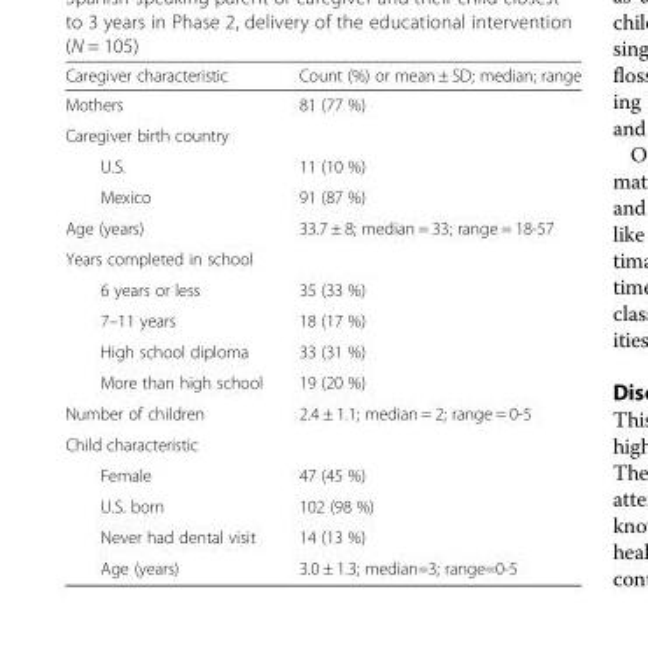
<table><thead><tr><td>Caregiver characteristic</td><td>Count (%) or mean ± SD; median; range</td></tr></thead><tbody><tr><td>Mothers</td><td>81 (77 %)</td></tr><tr><td colspan="2">Caregiver birth country</td></tr><tr><td>U.S.</td><td>11 (10 %)</td></tr><tr><td>Mexico</td><td>91 (87 %)</td></tr><tr><td>Age (years)</td><td>33.7 ± 8; median = 33; range = 18-57</td></tr><tr><td colspan="2">Years completed in school</td></tr><tr><td>6 years or less</td><td>35 (33 %)</td></tr><tr><td>7–11 years</td><td>18 (17 %)</td></tr><tr><td>High school diploma</td><td>33 (31 %)</td></tr><tr><td>More than high school</td><td>19 (20 %)</td></tr><tr><td>Number of children</td><td>2.4 ± 1.1; median = 2; range = 0-5</td></tr><tr><td colspan="2">Child characteristic</td></tr><tr><td>Female</td><td>47 (45 %)</td></tr><tr><td>U.S. born</td><td>102 (98 %)</td></tr><tr><td>Never had dental visit</td><td>14 (13 %)</td></tr><tr><td>Age (years)</td><td>3.0 ± 1.3; median=3; range=0-5</td></tr></tbody></table>